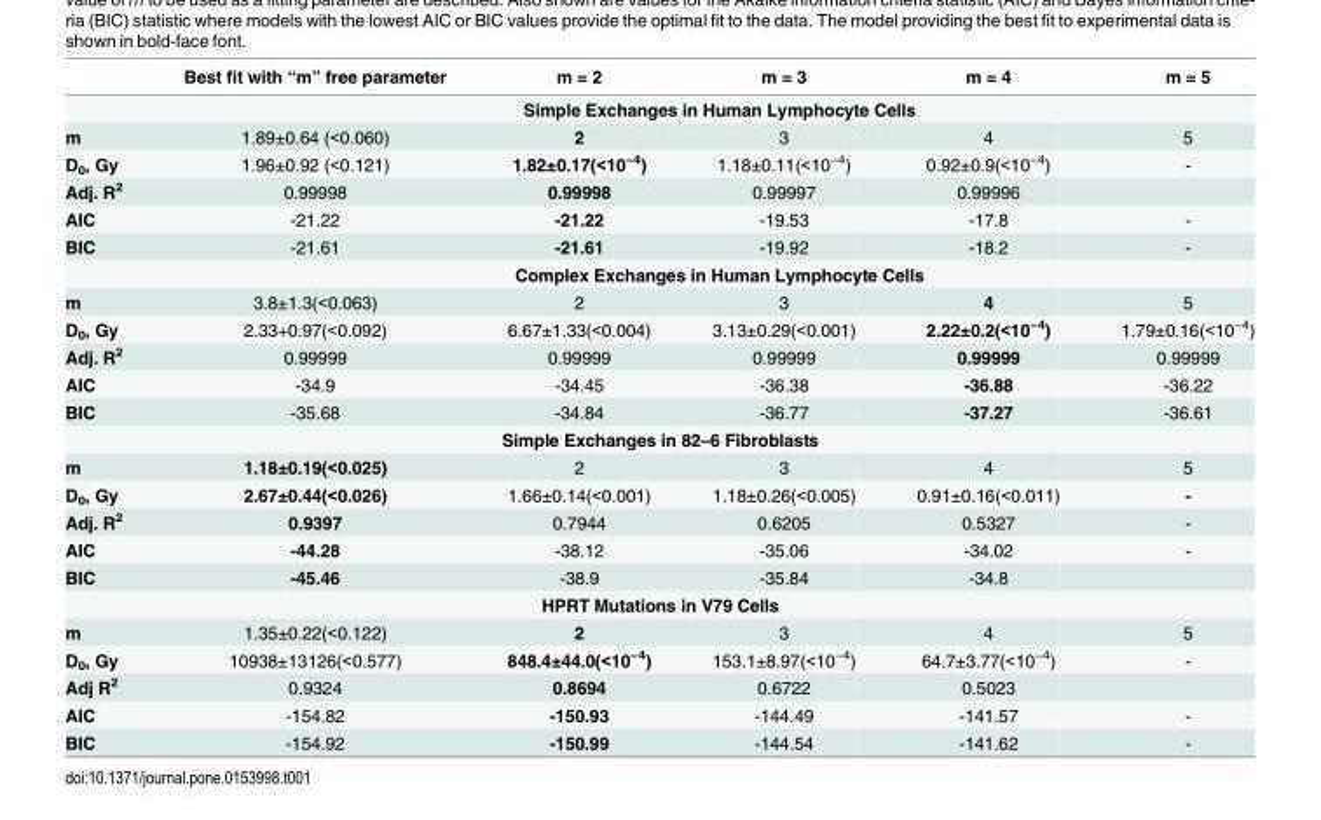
<table><thead><tr><td></td><td>Best fit with “m” free parameter</td><td>m = 2</td><td>m = 3</td><td>m = 4</td><td>m = 5</td></tr></thead><tbody><tr><td></td><td colspan="5">Simple Exchanges in Human Lymphocyte Cells</td></tr><tr><td>m</td><td>1.89±0.64 (&lt;0.060)</td><td>2</td><td>3</td><td>4</td><td>5</td></tr><tr><td>D<sub>0</sub>, Gy</td><td>1.96±0.92 (&lt;0.121)</td><td>1.82±0.17(&lt;10<sup>−4</sup>)</td><td>1.18±0.11(&lt;10<sup>−4</sup>)</td><td>0.92±0.9(&lt;10<sup>−4</sup>)</td><td>-</td></tr><tr><td>Adj. R<sup>2</sup></td><td>0.99998</td><td>0.99998</td><td>0.99997</td><td>0.99996</td><td></td></tr><tr><td>AIC</td><td>-21.22</td><td>-21.22</td><td>-19.53</td><td>-17.8</td><td>-</td></tr><tr><td rowspan="2">BIC</td><td>-21.61</td><td>-21.61</td><td>-19.92</td><td>-18.2</td><td>-</td></tr><tr><td colspan="5">Complex Exchanges in Human Lymphocyte Cells</td></tr><tr><td>m</td><td>3.8±1.3(&lt;0.063)</td><td>2</td><td>3</td><td>4</td><td>5</td></tr><tr><td>D<sub>0</sub>, Gy</td><td>2.33+0.97(&lt;0.092)</td><td>6.67±1.33(&lt;0.004)</td><td>3.13±0.29(&lt;0.001)</td><td>2.22±0.2(&lt;10<sup>−4</sup>)</td><td>1.79±0.16(&lt;10<sup>−4</sup>)</td></tr><tr><td>Adj. R<sup>2</sup></td><td>0.99999</td><td>0.99999</td><td>0.99999</td><td>0.99999</td><td>0.99999</td></tr><tr><td>AIC</td><td>-34.9</td><td>-34.45</td><td>-36.38</td><td>-36.88</td><td>-36.22</td></tr><tr><td>BIC</td><td>-35.68</td><td>-34.84</td><td>-36.77</td><td>-37.27</td><td>-36.61</td></tr><tr><td colspan="6">Simple Exchanges in 82–6 Fibroblasts</td></tr><tr><td>m</td><td>1.18±0.19(&lt;0.025)</td><td>2</td><td>3</td><td>4</td><td>5</td></tr><tr><td>D<sub>0</sub>, Gy</td><td>2.67±0.44(&lt;0.026)</td><td>1.66±0.14(&lt;0.001)</td><td>1.18±0.26(&lt;0.005)</td><td>0.91±0.16(&lt;0.011)</td><td>-</td></tr><tr><td>Adj. R<sup>2</sup></td><td>0.9397</td><td>0.7944</td><td>0.6205</td><td>0.5327</td><td>-</td></tr><tr><td>AIC</td><td>-44.28</td><td>-38.12</td><td>-35.06</td><td>-34.02</td><td>-</td></tr><tr><td>BIC</td><td>-45.46</td><td>-38.9</td><td>-35.84</td><td>-34.8</td><td></td></tr><tr><td colspan="6">HPRT Mutations in V79 Cells</td></tr><tr><td>m</td><td>1.35±0.22(&lt;0.122)</td><td>2</td><td>3</td><td>4</td><td>5</td></tr><tr><td>D<sub>0</sub>, Gy</td><td>10938±13126(&lt;0.577)</td><td>848.4±44.0(&lt;10<sup>−4</sup>)</td><td>153.1±8.97(&lt;10<sup>−4</sup>)</td><td>64.7±3.77(&lt;10<sup>−4</sup>)</td><td>-</td></tr><tr><td>Adj R<sup>2</sup></td><td>0.9324</td><td>0.8694</td><td>0.6722</td><td>0.5023</td><td></td></tr><tr><td>AIC</td><td>-154.82</td><td>-150.93</td><td>-144.49</td><td>-141.57</td><td>-</td></tr><tr><td>BIC</td><td>-154.92</td><td>-150.99</td><td>-144.54</td><td>-141.62</td><td>-</td></tr></tbody></table>